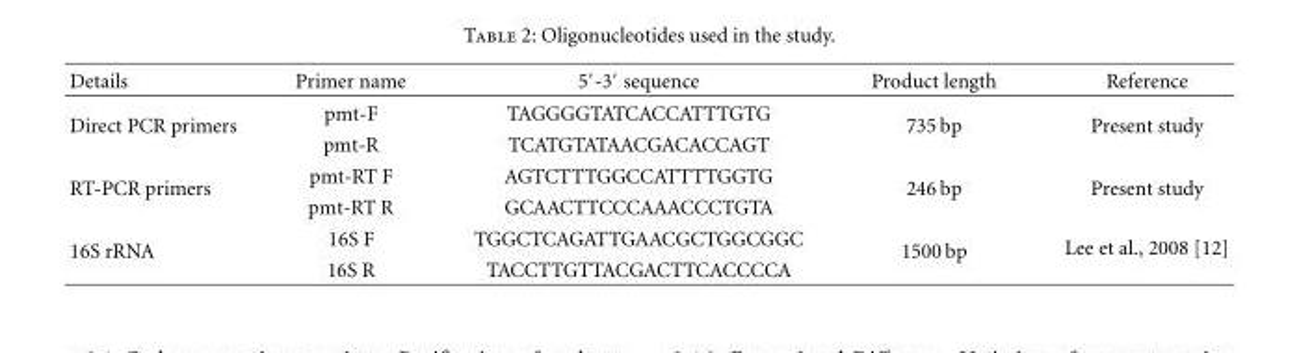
<table><thead><tr><td>Details</td><td>Primer name</td><td>5′-3′ sequence</td><td>Product length</td><td>Reference</td></tr></thead><tbody><tr><td rowspan="2">Direct PCR primers</td><td>pmt-F</td><td>TAGGGGTATCACCATTTGTG</td><td rowspan="2">735 bp</td><td rowspan="2">Present study</td></tr><tr><td>pmt-R</td><td>TCATGTATAACGACACCAGT</td></tr><tr><td rowspan="2">RT-PCR primers</td><td>pmt-RT F</td><td>AGTCTTTGGCCATTTTGGTG</td><td rowspan="2">246 bp</td><td rowspan="2">Present study</td></tr><tr><td>pmt-RT R</td><td>GCAACTTCCCAAACCCTGTA</td></tr><tr><td rowspan="2">16S rRNA</td><td>16S F</td><td>TGGCTCAGATTGAACGCTGGCGGC</td><td rowspan="2">1500 bp</td><td rowspan="2">Lee et al., 2008 [12]</td></tr><tr><td>16S R</td><td>TACCTTGTTACGACTTCACCCCA</td></tr></tbody></table>